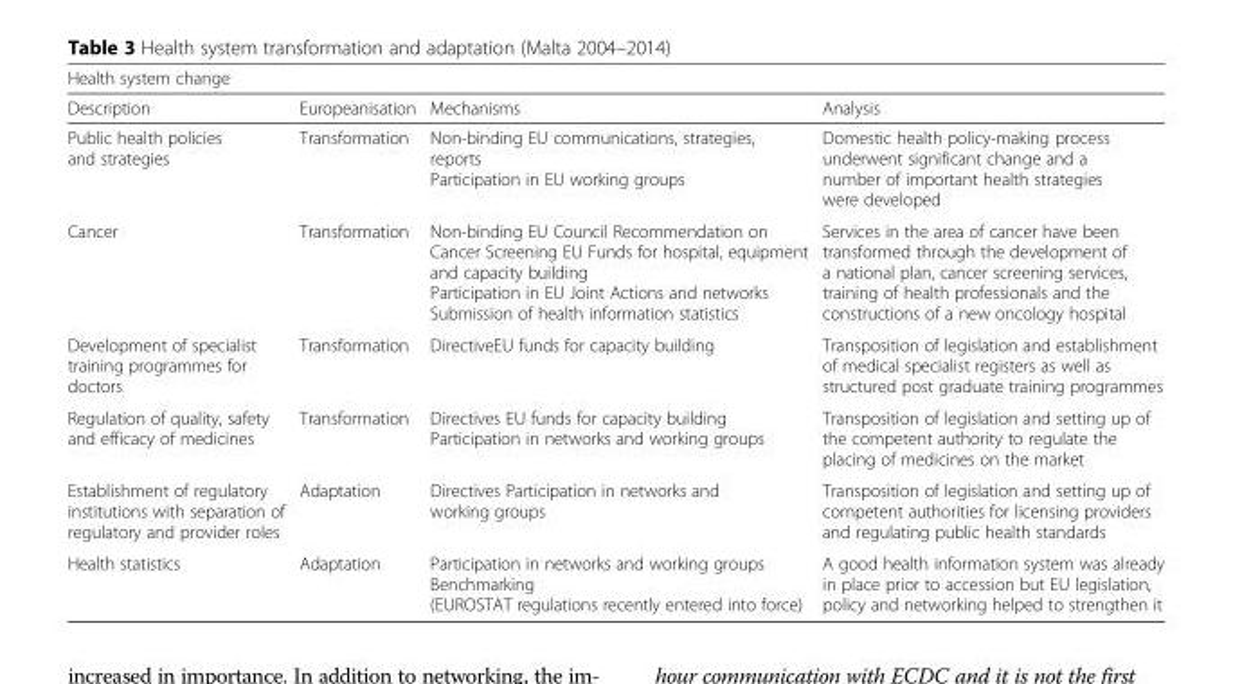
<table><thead><tr><td colspan="4">Health system change</td></tr><tr><td>Description</td><td>Europeanisation</td><td>Mechanisms</td><td>Analysis</td></tr></thead><tbody><tr><td>Public health policies and strategies</td><td>Transformation</td><td>Non-binding EU communications, strategies, reports Participation in EU working groups</td><td>Domestic health policy-making process underwent significant change and a number of important health strategies were developed</td></tr><tr><td>Cancer</td><td>Transformation</td><td>Non-binding EU Council Recommendation on Cancer Screening EU Funds for hospital, equipment and capacity building Participation in EU Joint Actions and networks Submission of health information statistics</td><td>Services in the area of cancer have been transformed through the development of a national plan, cancer screening services, training of health professionals and the constructions of a new oncology hospital</td></tr><tr><td>Development of specialist training programmes for doctors</td><td>Transformation</td><td>DirectiveEU funds for capacity building</td><td>Transposition of legislation and establishment of medical specialist registers as well as structured post graduate training programmes</td></tr><tr><td>Regulation of quality, safety and efficacy of medicines</td><td>Transformation</td><td>Directives EU funds for capacity building Participation in networks and working groups</td><td>Transposition of legislation and setting up of the competent authority to regulate the placing of medicines on the market</td></tr><tr><td>Establishment of regulatory institutions with separation of regulatory and provider roles</td><td>Adaptation</td><td>Directives Participation in networks and working groups</td><td>Transposition of legislation and setting up of competent authorities for licensing providers and regulating public health standards</td></tr><tr><td>Health statistics</td><td>Adaptation</td><td>Participation in networks and working groups Benchmarking (EUROSTAT regulations recently entered into force)</td><td>A good health information system was already in place prior to accession but EU legislation, policy and networking helped to strengthen it</td></tr></tbody></table>